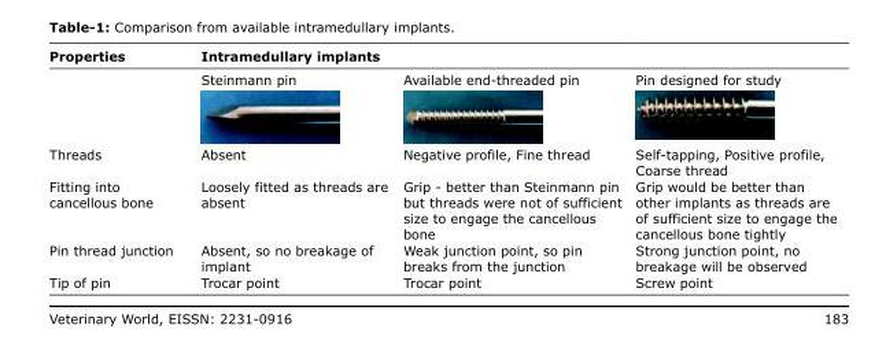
<table><thead><tr><td>Properties</td><td>Intramedullary implants</td><td></td><td></td></tr></thead><tbody><tr><td></td><td>Steinmann pin</td><td>Available end-threaded pin</td><td>Pin designed for study</td></tr><tr><td>Threads</td><td>Absent</td><td>Negative profile, Fine thread</td><td>Self-tapping, Positive profile, Coarse thread</td></tr><tr><td>Fitting into cancellous bone</td><td>Loosely fitted as threads are absent</td><td>Grip - better than Steinmann pin but threads were not of sufficient size to engage the cancellous bone</td><td>Grip would be better than other implants as threads are of sufficient size to engage the cancellous bone tightly</td></tr><tr><td>Pin thread junction</td><td>Absent, so no breakage of implant</td><td>Weak junction point, so pin breaks from the junction</td><td>Strong junction point, no breakage will be observed</td></tr><tr><td>Tip of pin</td><td>Trocar point</td><td>Trocar point</td><td>Screw point</td></tr></tbody></table>